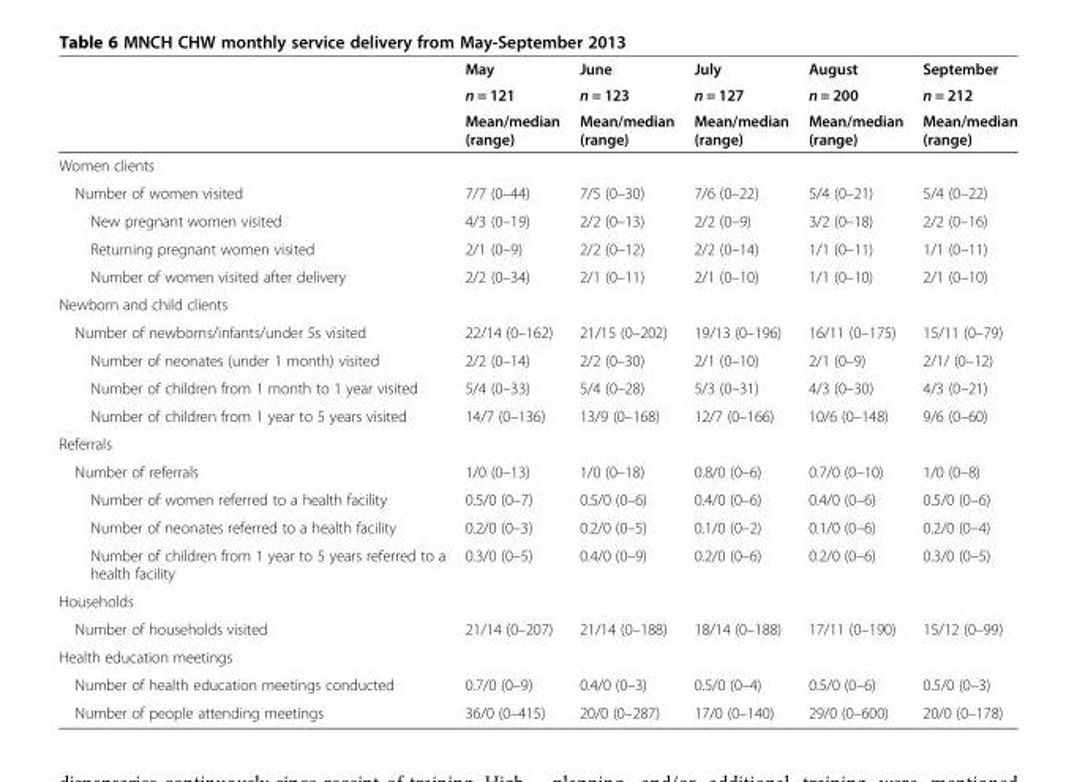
<table><thead><tr><td rowspan="3"></td><td rowspan="3">May n = 121 Mean/median (range)</td><td rowspan="3">June n = 123 Mean/median (range)</td><td rowspan="3">July n = 127 Mean/median (range)</td><td rowspan="3">August n = 200 Mean/median (range)</td><td rowspan="3">September n = 212 Mean/median (range)</td></tr><tr></tr><tr></tr></thead><tbody><tr><td colspan="6">Women clients</td></tr><tr><td>Number of women visited</td><td>7/7 (0–44)</td><td>7/5 (0–30)</td><td>7/6 (0–22)</td><td>5/4 (0–21)</td><td>5/4 (0–22)</td></tr><tr><td>New pregnant women visited</td><td>4/3 (0–19)</td><td>2/2 (0–13)</td><td>2/2 (0–9)</td><td>3/2 (0–18)</td><td>2/2 (0–16)</td></tr><tr><td>Returning pregnant women visited</td><td>2/1 (0–9)</td><td>2/2 (0–12)</td><td>2/2 (0–14)</td><td>1/1 (0–11)</td><td>1/1 (0–11)</td></tr><tr><td>Number of women visited after delivery</td><td>2/2 (0–34)</td><td>2/1 (0–11)</td><td>2/1 (0–10)</td><td>1/1 (0–10)</td><td>2/1 (0–10)</td></tr><tr><td colspan="6">Newborn and child clients</td></tr><tr><td>Number of newborns/infants/under 5s visited</td><td>22/14 (0–162)</td><td>21/15 (0–202)</td><td>19/13 (0–196)</td><td>16/11 (0–175)</td><td>15/11 (0–79)</td></tr><tr><td>Number of neonates (under 1 month) visited</td><td>2/2 (0–14)</td><td>2/2 (0–30)</td><td>2/1 (0–10)</td><td>2/1 (0–9)</td><td>2/1/ (0–12)</td></tr><tr><td>Number of children from 1 month to 1 year visited</td><td>5/4 (0–33)</td><td>5/4 (0–28)</td><td>5/3 (0–31)</td><td>4/3 (0–30)</td><td>4/3 (0–21)</td></tr><tr><td>Number of children from 1 year to 5 years visited</td><td>14/7 (0–136)</td><td>13/9 (0–168)</td><td>12/7 (0–166)</td><td>10/6 (0–148)</td><td>9/6 (0–60)</td></tr><tr><td colspan="6">Referrals</td></tr><tr><td>Number of referrals</td><td>1/0 (0–13)</td><td>1/0 (0–18)</td><td>0.8/0 (0–6)</td><td>0.7/0 (0–10)</td><td>1/0 (0–8)</td></tr><tr><td>Number of women referred to a health facility</td><td>0.5/0 (0–7)</td><td>0.5/0 (0–6)</td><td>0.4/0 (0–6)</td><td>0.4/0 (0–6)</td><td>0.5/0 (0–6)</td></tr><tr><td>Number of neonates referred to a health facility</td><td>0.2/0 (0–3)</td><td>0.2/0 (0–5)</td><td>0.1/0 (0–2)</td><td>0.1/0 (0–6)</td><td>0.2/0 (0–4)</td></tr><tr><td>Number of children from 1 year to 5 years referred to a health facility</td><td>0.3/0 (0–5)</td><td>0.4/0 (0–9)</td><td>0.2/0 (0–6)</td><td>0.2/0 (0–6)</td><td>0.3/0 (0–5)</td></tr><tr><td colspan="6">Households</td></tr><tr><td>Number of households visited</td><td>21/14 (0–207)</td><td>21/14 (0–188)</td><td>18/14 (0–188)</td><td>17/11 (0–190)</td><td>15/12 (0–99)</td></tr><tr><td colspan="6">Health education meetings</td></tr><tr><td>Number of health education meetings conducted</td><td>0.7/0 (0–9)</td><td>0.4/0 (0–3)</td><td>0.5/0 (0–4)</td><td>0.5/0 (0–6)</td><td>0.5/0 (0–3)</td></tr><tr><td>Number of people attending meetings</td><td>36/0 (0–415)</td><td>20/0 (0–287)</td><td>17/0 (0–140)</td><td>29/0 (0–600)</td><td>20/0 (0–178)</td></tr></tbody></table>